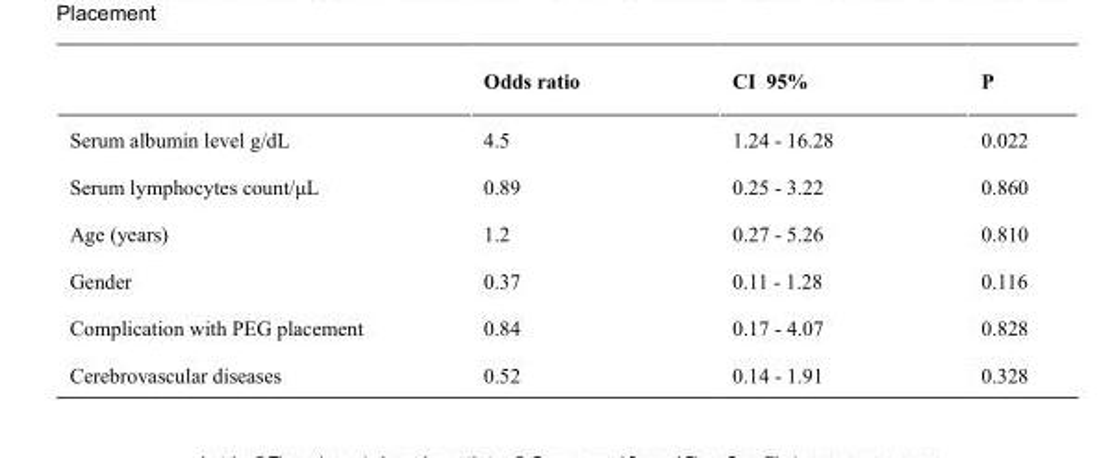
<table><thead><tr><td></td><td>Odds ratio</td><td>CI 95%</td><td>P</td></tr></thead><tbody><tr><td>Serum albumin level g/dL</td><td>4.5</td><td>1.24 - 16.28</td><td>0.022</td></tr><tr><td>Serum lymphocytes count/μL</td><td>0.89</td><td>0.25 - 3.22</td><td>0.860</td></tr><tr><td>Age (years)</td><td>1.2</td><td>0.27 - 5.26</td><td>0.810</td></tr><tr><td>Gender</td><td>0.37</td><td>0.11 - 1.28</td><td>0.116</td></tr><tr><td>Complication with PEG placement</td><td>0.84</td><td>0.17 - 4.07</td><td>0.828</td></tr><tr><td>Cerebrovascular diseases</td><td>0.52</td><td>0.14 - 1.91</td><td>0.328</td></tr></tbody></table>